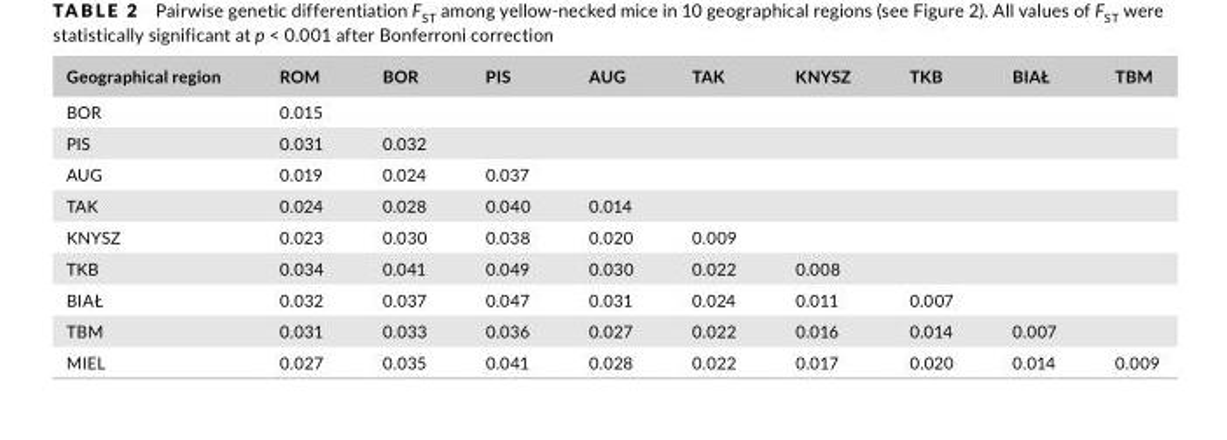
<table><thead><tr><td>Geographical region</td><td>ROM</td><td>BOR</td><td>PIS</td><td>AUG</td><td>TAK</td><td>KNYSZ</td><td>TKB</td><td>BIAŁ</td><td>TBM</td></tr></thead><tbody><tr><td>BOR</td><td>0.015</td><td></td><td></td><td></td><td></td><td></td><td></td><td></td><td></td></tr><tr><td>PIS</td><td>0.031</td><td>0.032</td><td></td><td></td><td></td><td></td><td></td><td></td><td></td></tr><tr><td>AUG</td><td>0.019</td><td>0.024</td><td>0.037</td><td></td><td></td><td></td><td></td><td></td><td></td></tr><tr><td>TAK</td><td>0.024</td><td>0.028</td><td>0.040</td><td>0.014</td><td></td><td></td><td></td><td></td><td></td></tr><tr><td>KNYSZ</td><td>0.023</td><td>0.030</td><td>0.038</td><td>0.020</td><td>0.009</td><td></td><td></td><td></td><td></td></tr><tr><td>TKB</td><td>0.034</td><td>0.041</td><td>0.049</td><td>0.030</td><td>0.022</td><td>0.008</td><td></td><td></td><td></td></tr><tr><td>BIAŁ</td><td>0.032</td><td>0.037</td><td>0.047</td><td>0.031</td><td>0.024</td><td>0.011</td><td>0.007</td><td></td><td></td></tr><tr><td>TBM</td><td>0.031</td><td>0.033</td><td>0.036</td><td>0.027</td><td>0.022</td><td>0.016</td><td>0.014</td><td>0.007</td><td></td></tr><tr><td>MIEL</td><td>0.027</td><td>0.035</td><td>0.041</td><td>0.028</td><td>0.022</td><td>0.017</td><td>0.020</td><td>0.014</td><td>0.009</td></tr></tbody></table>